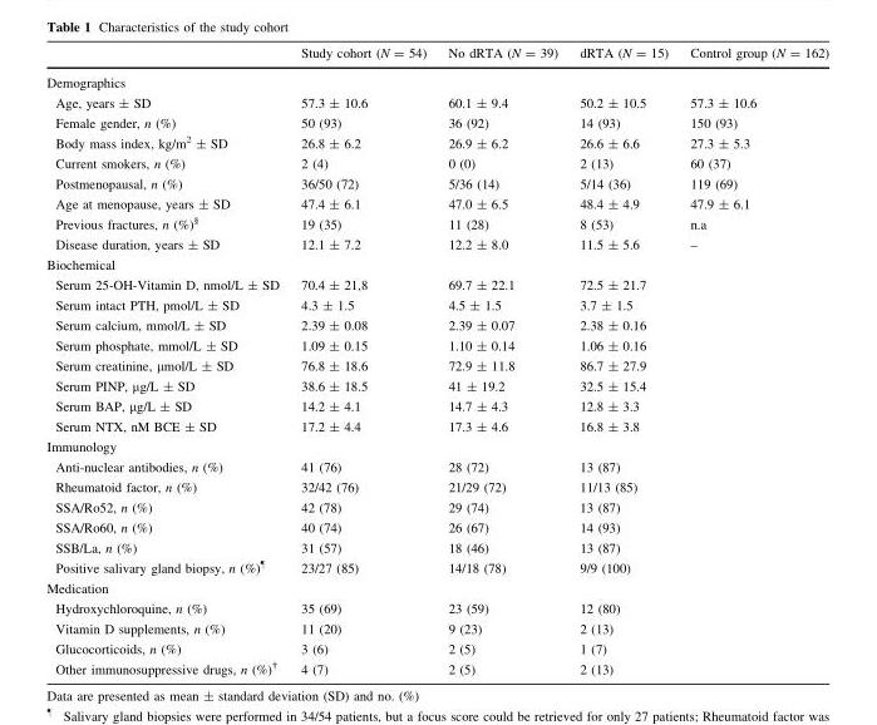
<table><thead><tr><td></td><td>Study cohort (N = 54)</td><td>No dRTA (N = 39)</td><td>dRTA (N = 15)</td><td>Control group (N = 162)</td></tr></thead><tbody><tr><td colspan="5">Demographics</td></tr><tr><td>Age, years ± SD</td><td>57.3 ± 10.6</td><td>60.1 ± 9.4</td><td>50.2 ± 10.5</td><td>57.3 ± 10.6</td></tr><tr><td>Female gender, n (%)</td><td>50 (93)</td><td>36 (92)</td><td>14 (93)</td><td>150 (93)</td></tr><tr><td>Body mass index, kg/m<sup>2</sup> ± SD</td><td>26.8 ± 6.2</td><td>26.9 ± 6.2</td><td>26.6 ± 6.6</td><td>27.3 ± 5.3</td></tr><tr><td>Current smokers, n (%)</td><td>2 (4)</td><td>0 (0)</td><td>2 (13)</td><td>60 (37)</td></tr><tr><td>Postmenopausal, n (%)</td><td>36/50 (72)</td><td>5/36 (14)</td><td>5/14 (36)</td><td>119 (69)</td></tr><tr><td>Age at menopause, years ± SD</td><td>47.4 ± 6.1</td><td>47.0 ± 6.5</td><td>48.4 ± 4.9</td><td>47.9 ± 6.1</td></tr><tr><td>Previous fractures, n (%)<sup>§</sup></td><td>19 (35)</td><td>11 (28)</td><td>8 (53)</td><td>n.a</td></tr><tr><td>Disease duration, years ± SD</td><td>12.1 ± 7.2</td><td>12.2 ± 8.0</td><td>11.5 ± 5.6</td><td>–</td></tr><tr><td colspan="5">Biochemical</td></tr><tr><td>Serum 25-OH-Vitamin D, nmol/L ± SD</td><td>70.4 ± 21,8</td><td>69.7 ± 22.1</td><td>72.5 ± 21.7</td><td></td></tr><tr><td>Serum intact PTH, pmol/L ± SD</td><td>4.3 ± 1.5</td><td>4.5 ± 1.5</td><td>3.7 ± 1.5</td><td></td></tr><tr><td>Serum calcium, mmol/L ± SD</td><td>2.39 ± 0.08</td><td>2.39 ± 0.07</td><td>2.38 ± 0.16</td><td></td></tr><tr><td>Serum phosphate, mmol/L ± SD</td><td>1.09 ± 0.15</td><td>1.10 ± 0.14</td><td>1.06 ± 0.16</td><td></td></tr><tr><td>Serum creatinine, µmol/L ± SD</td><td>76.8 ± 18.6</td><td>72.9 ± 11.8</td><td>86.7 ± 27.9</td><td></td></tr><tr><td>Serum PINP, µg/L ± SD</td><td>38.6 ± 18.5</td><td>41 ± 19.2</td><td>32.5 ± 15.4</td><td></td></tr><tr><td>Serum BAP, µg/L ± SD</td><td>14.2 ± 4.1</td><td>14.7 ± 4.3</td><td>12.8 ± 3.3</td><td></td></tr><tr><td>Serum NTX, nM BCE ± SD</td><td>17.2 ± 4.4</td><td>17.3 ± 4.6</td><td>16.8 ± 3.8</td><td></td></tr><tr><td colspan="5">Immunology</td></tr><tr><td>Anti-nuclear antibodies, n (%)</td><td>41 (76)</td><td>28 (72)</td><td>13 (87)</td><td></td></tr><tr><td>Rheumatoid factor, n (%)</td><td>32/42 (76)</td><td>21/29 (72)</td><td>11/13 (85)</td><td></td></tr><tr><td>SSA/Ro52, n (%)</td><td>42 (78)</td><td>29 (74)</td><td>13 (87)</td><td></td></tr><tr><td>SSA/Ro60, n (%)</td><td>40 (74)</td><td>26 (67)</td><td>14 (93)</td><td></td></tr><tr><td>SSB/La, n (%)</td><td>31 (57)</td><td>18 (46)</td><td>13 (87)</td><td></td></tr><tr><td>Positive salivary gland biopsy, n (%)<sup>¶</sup></td><td>23/27 (85)</td><td>14/18 (78)</td><td>9/9 (100)</td><td></td></tr><tr><td colspan="5">Medication</td></tr><tr><td>Hydroxychloroquine, n (%)</td><td>35 (69)</td><td>23 (59)</td><td>12 (80)</td><td></td></tr><tr><td>Vitamin D supplements, n (%)</td><td>11 (20)</td><td>9 (23)</td><td>2 (13)</td><td></td></tr><tr><td>Glucocorticoids, n (%)</td><td>3 (6)</td><td>2 (5)</td><td>1 (7)</td><td></td></tr><tr><td>Other immunosuppressive drugs, n (%)<sup>†</sup></td><td>4 (7)</td><td>2 (5)</td><td>2 (13)</td><td></td></tr></tbody></table>